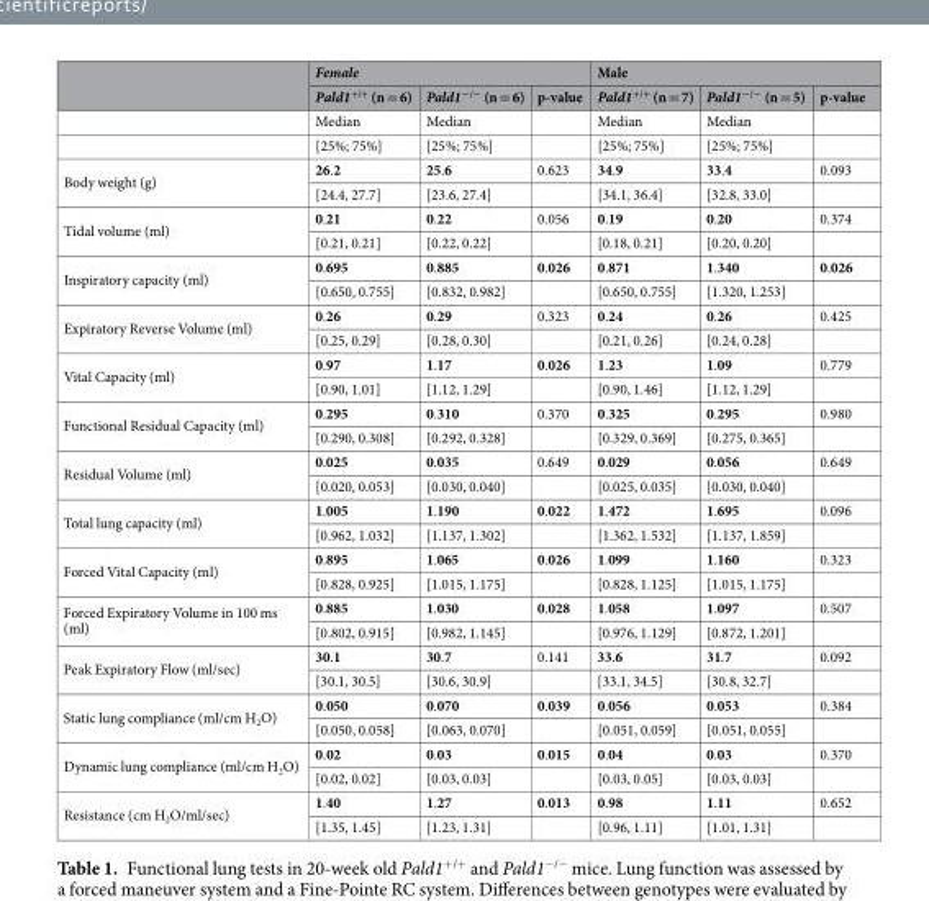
<table><thead><tr><td rowspan="2"></td><td colspan="3">Female</td><td colspan="3">Male</td></tr><tr><td>Pald1<sup>+/+</sup> (n = 6)</td><td>Pald1<sup>−/−</sup> (n = 6)</td><td>p-value</td><td>Pald1<sup>+/+</sup> (n = 7)</td><td>Pald1<sup>−/−</sup> (n = 5)</td><td>p-value</td></tr></thead><tbody><tr><td></td><td>Median</td><td>Median</td><td></td><td>Median</td><td>Median</td><td></td></tr><tr><td></td><td>[25%; 75%]</td><td>[25%; 75%]</td><td></td><td>[25%; 75%]</td><td>[25%; 75%]</td><td></td></tr><tr><td rowspan="2">Body weight (g)</td><td>26.2</td><td>25.6</td><td>0.623</td><td>34.9</td><td>33.4</td><td>0.093</td></tr><tr><td>[24.4, 27.7]</td><td>[23.6, 27.4]</td><td></td><td>[34.1, 36.4]</td><td>[32.8, 33.0]</td><td></td></tr><tr><td rowspan="2">Tidal volume (ml)</td><td>0.21</td><td>0.22</td><td>0.056</td><td>0.19</td><td>0.20</td><td>0.374</td></tr><tr><td>[0.21, 0.21]</td><td>[0.22, 0.22]</td><td></td><td>[0.18, 0.21]</td><td>[0.20, 0.20]</td><td></td></tr><tr><td rowspan="2">Inspiratory capacity (ml)</td><td>0.695</td><td>0.885</td><td>0.026</td><td>0.871</td><td>1.340</td><td>0.026</td></tr><tr><td>[0.650, 0.755]</td><td>[0.832, 0.982]</td><td></td><td>[0.650, 0.755]</td><td>[1.320, 1.253]</td><td></td></tr><tr><td rowspan="2">Expiratory Reverse Volume (ml)</td><td>0.26</td><td>0.29</td><td>0.323</td><td>0.24</td><td>0.26</td><td>0.425</td></tr><tr><td>[0.25, 0.29]</td><td>[0.28, 0.30]</td><td></td><td>[0.21, 0.26]</td><td>[0.24, 0.28]</td><td></td></tr><tr><td rowspan="2">Vital Capacity (ml)</td><td>0.97</td><td>1.17</td><td>0.026</td><td>1.23</td><td>1.09</td><td>0.779</td></tr><tr><td>[0.90, 1.01]</td><td>[1.12, 1.29]</td><td></td><td>[0.90, 1.46]</td><td>[1.12, 1.29]</td><td></td></tr><tr><td rowspan="2">Functional Residual Capacity (ml)</td><td>0.295</td><td>0.310</td><td>0.370</td><td>0.325</td><td>0.295</td><td>0.980</td></tr><tr><td>[0.290, 0.308]</td><td>[0.292, 0.328]</td><td></td><td>[0.329, 0.369]</td><td>[0.275, 0.365]</td><td></td></tr><tr><td rowspan="2">Residual Volume (ml)</td><td>0.025</td><td>0.035</td><td>0.649</td><td>0.029</td><td>0.056</td><td>0.649</td></tr><tr><td>[0.020, 0.053]</td><td>[0.030, 0.040]</td><td></td><td>[0.025, 0.035]</td><td>[0.030, 0.040]</td><td></td></tr><tr><td rowspan="2">Total lung capacity (ml)</td><td>1.005</td><td>1.190</td><td>0.022</td><td>1.472</td><td>1.695</td><td>0.096</td></tr><tr><td>[0.962, 1.032]</td><td>[1.137, 1.302]</td><td></td><td>[1.362, 1.532]</td><td>[1.137, 1.859]</td><td></td></tr><tr><td rowspan="2">Forced Vital Capacity (ml)</td><td>0.895</td><td>1.065</td><td>0.026</td><td>1.099</td><td>1.160</td><td>0.323</td></tr><tr><td>[0.828, 0.925]</td><td>[1.015, 1.175]</td><td></td><td>[0.828, 1.125]</td><td>[1.015, 1.175]</td><td></td></tr><tr><td rowspan="2">Forced Expiratory Volume in 100 ms (ml)</td><td>0.885</td><td>1.030</td><td>0.028</td><td>1.058</td><td>1.097</td><td>0.507</td></tr><tr><td>[0.802, 0.915]</td><td>[0.982, 1.145]</td><td></td><td>[0.976, 1.129]</td><td>[0.872, 1.201]</td><td></td></tr><tr><td rowspan="2">Peak Expiratory Flow (ml/sec)</td><td>30.1</td><td>30.7</td><td>0.141</td><td>33.6</td><td>31.7</td><td>0.092</td></tr><tr><td>[30.1, 30.5]</td><td>[30.6, 30.9]</td><td></td><td>[33.1, 34.5]</td><td>[30.8, 32.7]</td><td></td></tr><tr><td rowspan="2">Static lung compliance (ml/cm H<sub>2</sub>O)</td><td>0.050</td><td>0.070</td><td>0.039</td><td>0.056</td><td>0.053</td><td>0.384</td></tr><tr><td>[0.050, 0.058]</td><td>[0.063, 0.070]</td><td></td><td>[0.051, 0.059]</td><td>[0.051, 0.055]</td><td></td></tr><tr><td rowspan="2">Dynamic lung compliance (ml/cm H<sub>2</sub>O)</td><td>0.02</td><td>0.03</td><td>0.015</td><td>0.04</td><td>0.03</td><td>0.370</td></tr><tr><td>[0.02, 0.02]</td><td>[0.03, 0.03]</td><td></td><td>[0.03, 0.05]</td><td>[0.03, 0.03]</td><td></td></tr><tr><td rowspan="2">Resistance (cm H<sub>2</sub>O/ml/sec)</td><td>1.40</td><td>1.27</td><td>0.013</td><td>0.98</td><td>1.11</td><td>0.652</td></tr><tr><td>[1.35, 1.45]</td><td>[1.23, 1.31]</td><td></td><td>[0.96, 1.11]</td><td>[1.01, 1.31]</td><td></td></tr></tbody></table>